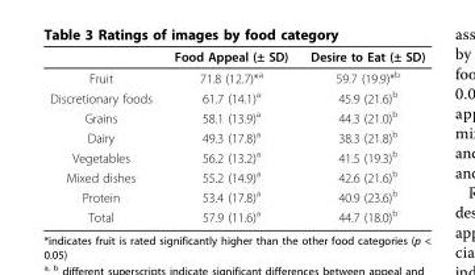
<table><thead><tr><td></td><td>Food Appeal (± SD)</td><td>Desire to Eat (± SD)</td></tr></thead><tbody><tr><td>Fruit</td><td>71.8 (12.7)*<sup>a</sup></td><td>59.7 (19.9)*<sup>b</sup></td></tr><tr><td>Discretionary foods</td><td>61.7 (14.1)<sup>a</sup></td><td>45.9 (21.6)<sup>b</sup></td></tr><tr><td>Grains</td><td>58.1 (13.9)<sup>a</sup></td><td>44.3 (21.0)<sup>b</sup></td></tr><tr><td>Dairy</td><td>49.3 (17.8)<sup>a</sup></td><td>38.3 (21.8)<sup>b</sup></td></tr><tr><td>Vegetables</td><td>56.2 (13.2)<sup>a</sup></td><td>41.5 (19.3)<sup>b</sup></td></tr><tr><td>Mixed dishes</td><td>55.2 (14.9)<sup>a</sup></td><td>42.6 (21.6)<sup>b</sup></td></tr><tr><td>Protein</td><td>53.4 (17.8)<sup>a</sup></td><td>40.9 (23.6)<sup>b</sup></td></tr><tr><td>Total</td><td>57.9 (11.6)<sup>a</sup></td><td>44.7 (18.0)<sup>b</sup></td></tr></tbody></table>